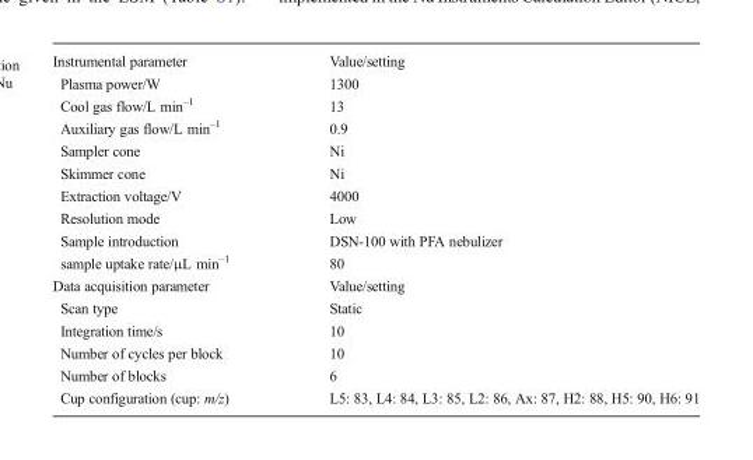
<table><tbody><tr><td>Instrumental parameter</td><td>Value/setting</td></tr><tr><td>Plasma power/W</td><td>1300</td></tr><tr><td>Cool gas flow/L min<sup>–1</sup></td><td>13</td></tr><tr><td>Auxiliary gas flow/L min<sup>–1</sup></td><td>0.9</td></tr><tr><td>Sampler cone</td><td>Ni</td></tr><tr><td>Skimmer cone</td><td>Ni</td></tr><tr><td>Extraction voltage/V</td><td>4000</td></tr><tr><td>Resolution mode</td><td>Low</td></tr><tr><td>Sample introduction</td><td>DSN-100 with PFA nebulizer</td></tr><tr><td>sample uptake rate/μL min<sup>–1</sup></td><td>80</td></tr><tr><td>Data acquisition parameter</td><td>Value/setting</td></tr><tr><td>Scan type</td><td>Static</td></tr><tr><td>Integration time/s</td><td>10</td></tr><tr><td>Number of cycles per block</td><td>10</td></tr><tr><td>Number of blocks</td><td>6</td></tr><tr><td>Cup configuration (cup: m/z)</td><td>L5: 83, L4: 84, L3: 85, L2: 86, Ax: 87, H2: 88, H5: 90, H6: 91</td></tr></tbody></table>